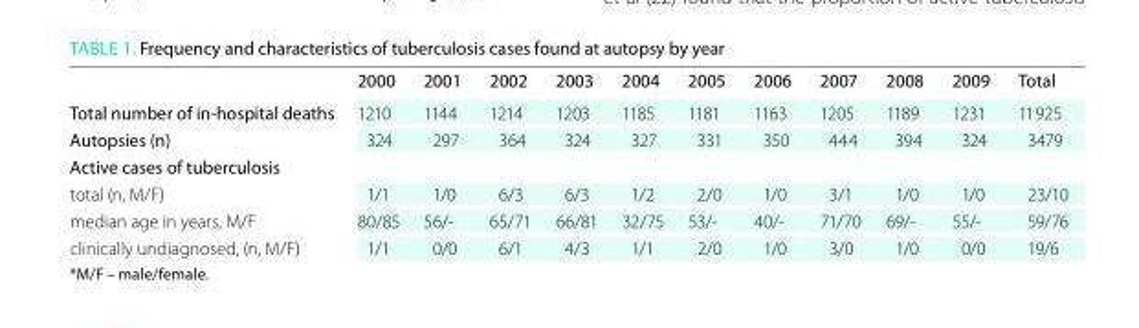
<table><thead><tr><td></td><td>2000</td><td>2001</td><td>2002</td><td>2003</td><td>2004</td><td>2005</td><td>2006</td><td>2007</td><td>2008</td><td>2009</td><td>Total</td></tr></thead><tbody><tr><td>Total number of in-hospital deaths</td><td>1210</td><td>1144</td><td>1214</td><td>1203</td><td>1185</td><td>1181</td><td>1163</td><td>1205</td><td>1189</td><td>1231</td><td>11 925</td></tr><tr><td>autopsies (n)</td><td>324</td><td>297</td><td>364</td><td>324</td><td>327</td><td>331</td><td>350</td><td>444</td><td>394</td><td>324</td><td>3479</td></tr><tr><td colspan="12">active cases of tuberculosis</td></tr><tr><td>total (n, M/F)</td><td>1/1</td><td>1/0</td><td>6/3</td><td>6/3</td><td>1/2</td><td>2/0</td><td>1/0</td><td>3/1</td><td>1/0</td><td>1/0</td><td>23/10</td></tr><tr><td>median age in years, M/F</td><td>80/85</td><td>56/-</td><td>65/71</td><td>66/81</td><td>32/75</td><td>53/-</td><td>40/-</td><td>71/70</td><td>69/-</td><td>55/-</td><td>59/76</td></tr><tr><td>clinically undiagnosed, (n, M/F)</td><td>1/1</td><td>0/0</td><td>6/1</td><td>4/3</td><td>1/1</td><td>2/0</td><td>1/0</td><td>3/0</td><td>1/0</td><td>0/0</td><td>19/6</td></tr></tbody></table>